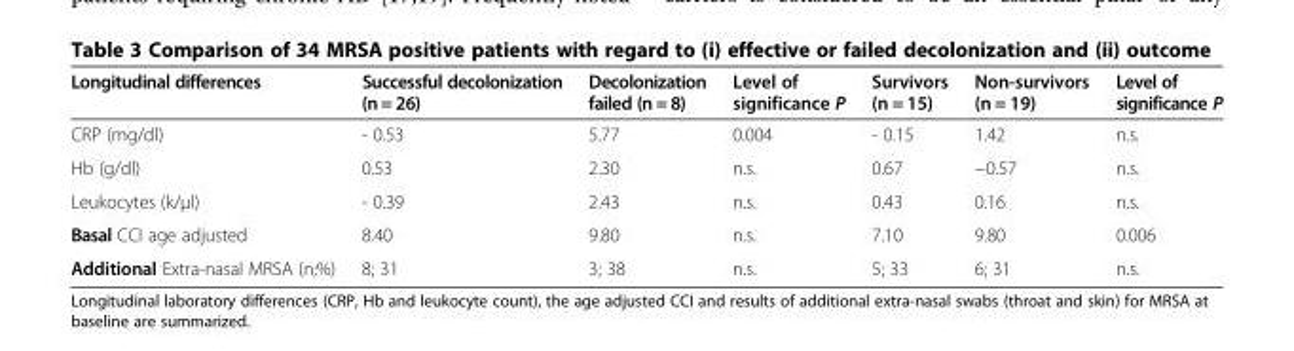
<table><thead><tr><td>Longitudinal differences</td><td>Successful decolonization (n = 26)</td><td>Decolonization failed (n = 8)</td><td>Level of significance P</td><td>Survivors (n = 15)</td><td>Non-survivors (n = 19)</td><td>Level of significance P</td></tr></thead><tbody><tr><td>CRP (mg/dl)</td><td>- 0.53</td><td>5.77</td><td>0.004</td><td>- 0.15</td><td>1.42</td><td>n.s.</td></tr><tr><td>Hb (g/dl)</td><td>0.53</td><td>2.30</td><td>n.s.</td><td>0.67</td><td>−0.57</td><td>n.s.</td></tr><tr><td>Leukocytes (k/μl)</td><td>- 0.39</td><td>2.43</td><td>n.s.</td><td>0.43</td><td>0.16</td><td>n.s.</td></tr><tr><td>Basal CCI age adjusted</td><td>8.40</td><td>9.80</td><td>n.s.</td><td>7.10</td><td>9.80</td><td>0.006</td></tr><tr><td>Additional Extra-nasal MRSA (n;%)</td><td>8; 31</td><td>3; 38</td><td>n.s.</td><td>5; 33</td><td>6; 31</td><td>n.s.</td></tr></tbody></table>